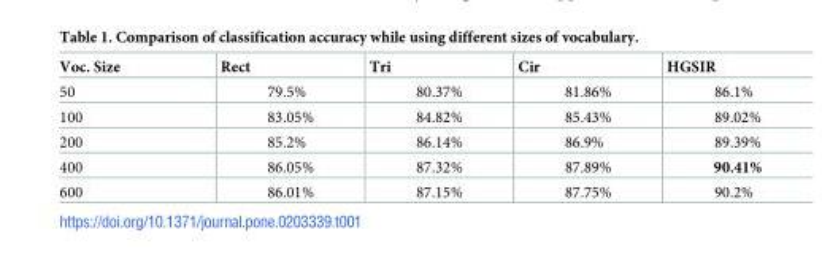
<table><thead><tr><td>Voc. Size</td><td>Rect</td><td>Tri</td><td>Cir</td><td>HGSIR</td></tr></thead><tbody><tr><td>50</td><td>79.5%</td><td>80.37%</td><td>81.86%</td><td>86.1%</td></tr><tr><td>100</td><td>83.05%</td><td>84.82%</td><td>85.43%</td><td>89.02%</td></tr><tr><td>200</td><td>85.2%</td><td>86.14%</td><td>86.9%</td><td>89.39%</td></tr><tr><td>400</td><td>86.05%</td><td>87.32%</td><td>87.89%</td><td>90.41%</td></tr><tr><td>600</td><td>86.01%</td><td>87.15%</td><td>87.75%</td><td>90.2%</td></tr></tbody></table>